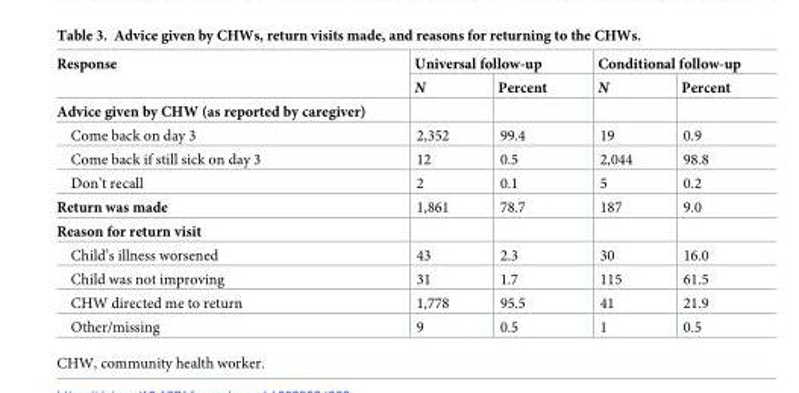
<table><thead><tr><td rowspan="2">Response</td><td colspan="2">Universal follow-up</td><td colspan="2">Conditional follow-up</td></tr><tr><td>N</td><td>Percent</td><td>N</td><td>Percent</td></tr></thead><tbody><tr><td colspan="5">Advice given by CHW (as reported by caregiver)</td></tr><tr><td>Come back on day 3</td><td>2,352</td><td>99.4</td><td>19</td><td>0.9</td></tr><tr><td>Come back if still sick on day 3</td><td>12</td><td>0.5</td><td>2,044</td><td>98.8</td></tr><tr><td>Don’t recall</td><td>2</td><td>0.1</td><td>5</td><td>0.2</td></tr><tr><td>Return was made</td><td>1,861</td><td>78.7</td><td>187</td><td>9.0</td></tr><tr><td colspan="5">Reason for return visit</td></tr><tr><td>Child’s illness worsened</td><td>43</td><td>2.3</td><td>30</td><td>16.0</td></tr><tr><td>Child was not improving</td><td>31</td><td>1.7</td><td>115</td><td>61.5</td></tr><tr><td>CHW directed me to return</td><td>1,778</td><td>95.5</td><td>41</td><td>21.9</td></tr><tr><td>Other/missing</td><td>9</td><td>0.5</td><td>1</td><td>0.5</td></tr></tbody></table>